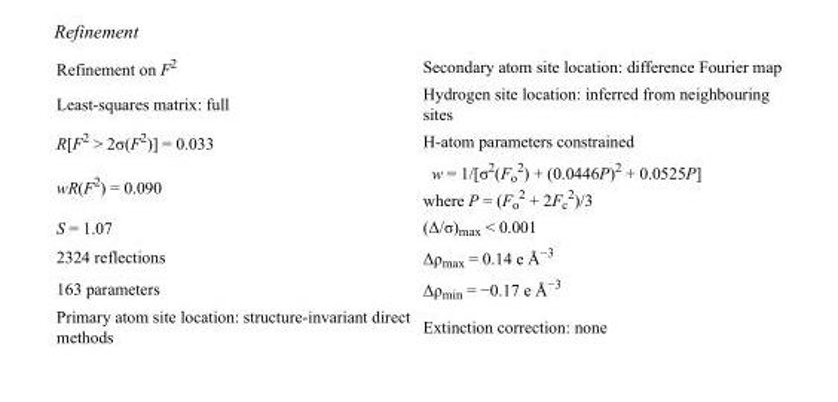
<table><tbody><tr><td>Refinement on F<sup>2</sup></td><td>Secondary atom site location: difference Fourier map</td></tr><tr><td>Least-squares matrix: full</td><td>Hydrogen site location: inferred from neighbouring sites</td></tr><tr><td>R[F<sup>2</sup> &gt; 2σ(F<sup>2</sup>)] = 0.033</td><td>H-atom parameters constrained</td></tr><tr><td>wR(F<sup>2</sup>) = 0.090</td><td>w = 1/[σ<sup>2</sup>(F<sub>o</sub> <sup>2</sup>) + (0.0446P)<sup>2</sup> + 0.0525P] where P = (F<sub>o</sub> <sup>2</sup> + 2F<sub>c</sub> <sup>2</sup>)/3</td></tr><tr><td>S = 1.07</td><td>(Δ/σ)<sub>max</sub> &lt; 0.001</td></tr><tr><td>2324 reflections</td><td>Δρ<sub>max</sub> = 0.14 e Å<sup>−3</sup></td></tr><tr><td>163 parameters</td><td>Δρ<sub>min</sub> = −0.17 e Å<sup>−3</sup></td></tr><tr><td>Primary atom site location: structure-invariant direct methods</td><td>Extinction correction: none</td></tr></tbody></table>